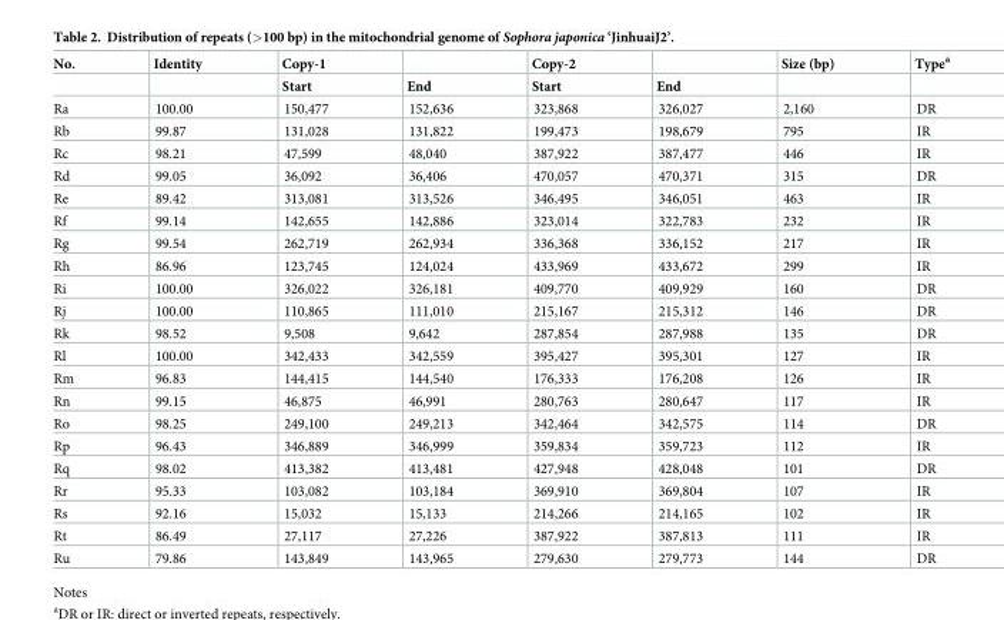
<table><thead><tr><td rowspan="2">No.</td><td rowspan="2">Identity</td><td rowspan="2">Copy-1 Start</td><td rowspan="2">End</td><td rowspan="2">Copy-2 Start</td><td rowspan="2">End</td><td rowspan="2">Size (bp)</td><td rowspan="2">Type<sup>a</sup></td></tr><tr></tr></thead><tbody><tr><td>Ra</td><td>100.00</td><td>150,477</td><td>152,636</td><td>323,868</td><td>326,027</td><td>2,160</td><td>DR</td></tr><tr><td>Rb</td><td>99.87</td><td>131,028</td><td>131,822</td><td>199,473</td><td>198,679</td><td>795</td><td>IR</td></tr><tr><td>Rc</td><td>98.21</td><td>47,599</td><td>48,040</td><td>387,922</td><td>387,477</td><td>446</td><td>IR</td></tr><tr><td>Rd</td><td>99.05</td><td>36,092</td><td>36,406</td><td>470,057</td><td>470,371</td><td>315</td><td>DR</td></tr><tr><td>Re</td><td>89.42</td><td>313,081</td><td>313,526</td><td>346,495</td><td>346,051</td><td>463</td><td>IR</td></tr><tr><td>Rf</td><td>99.14</td><td>142,655</td><td>142,886</td><td>323,014</td><td>322,783</td><td>232</td><td>IR</td></tr><tr><td>Rg</td><td>99.54</td><td>262,719</td><td>262,934</td><td>336,368</td><td>336,152</td><td>217</td><td>IR</td></tr><tr><td>Rh</td><td>86.96</td><td>123,745</td><td>124,024</td><td>433,969</td><td>433,672</td><td>299</td><td>IR</td></tr><tr><td>Ri</td><td>100.00</td><td>326,022</td><td>326,181</td><td>409,770</td><td>409,929</td><td>160</td><td>DR</td></tr><tr><td>Rj</td><td>100.00</td><td>110,865</td><td>111,010</td><td>215,167</td><td>215,312</td><td>146</td><td>DR</td></tr><tr><td>Rk</td><td>98.52</td><td>9,508</td><td>9,642</td><td>287,854</td><td>287,988</td><td>135</td><td>DR</td></tr><tr><td>Rl</td><td>100.00</td><td>342,433</td><td>342,559</td><td>395,427</td><td>395,301</td><td>127</td><td>IR</td></tr><tr><td>Rm</td><td>96.83</td><td>144,415</td><td>144,540</td><td>176,333</td><td>176,208</td><td>126</td><td>IR</td></tr><tr><td>Rn</td><td>99.15</td><td>46,875</td><td>46,991</td><td>280,763</td><td>280,647</td><td>117</td><td>IR</td></tr><tr><td>Ro</td><td>98.25</td><td>249,100</td><td>249,213</td><td>342,464</td><td>342,575</td><td>114</td><td>DR</td></tr><tr><td>Rp</td><td>96.43</td><td>346,889</td><td>346,999</td><td>359,834</td><td>359,723</td><td>112</td><td>IR</td></tr><tr><td>Rq</td><td>98.02</td><td>413,382</td><td>413,481</td><td>427,948</td><td>428,048</td><td>101</td><td>DR</td></tr><tr><td>Rr</td><td>95.33</td><td>103,082</td><td>103,184</td><td>369,910</td><td>369,804</td><td>107</td><td>IR</td></tr><tr><td>Rs</td><td>92.16</td><td>15,032</td><td>15,133</td><td>214,266</td><td>214,165</td><td>102</td><td>IR</td></tr><tr><td>Rt</td><td>86.49</td><td>27,117</td><td>27,226</td><td>387,922</td><td>387,813</td><td>111</td><td>IR</td></tr><tr><td>Ru</td><td>79.86</td><td>143,849</td><td>143,965</td><td>279,630</td><td>279,773</td><td>144</td><td>DR</td></tr></tbody></table>